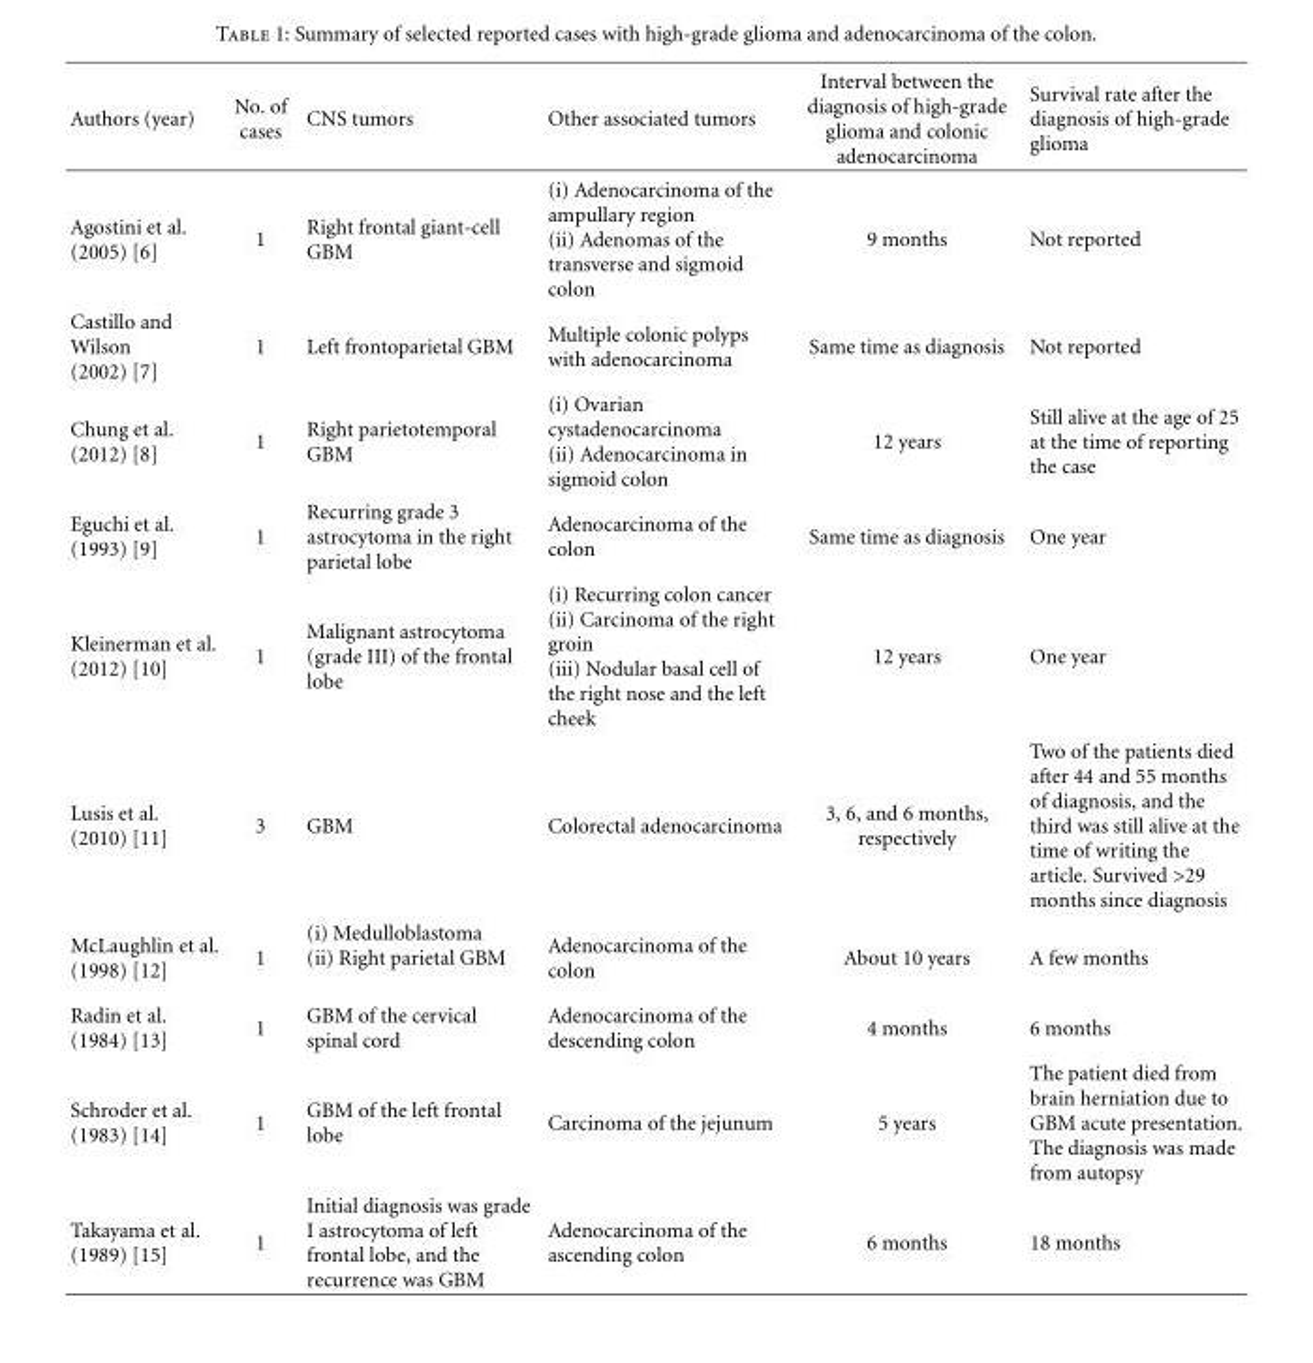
<table><thead><tr><td>Authors (year)</td><td>No. of cases</td><td>CNS tumors</td><td>Other associated tumors</td><td>Interval between the diagnosis of high-grade glioma and colonic adenocarcinoma</td><td>Survival rate after the diagnosis of high-grade glioma</td></tr></thead><tbody><tr><td>Agostini et al. (2005) [6]</td><td>1</td><td>Right frontal giant-cell GBM</td><td>(i) Adenocarcinoma of the ampullary region (ii) Adenomas of the transverse and sigmoid colon</td><td>9 months</td><td>Not reported</td></tr><tr><td>Castillo and Wilson (2002) [7]</td><td>1</td><td>Left frontoparietal GBM</td><td>Multiple colonic polyps with adenocarcinoma</td><td>Same time as diagnosis</td><td>Not reported</td></tr><tr><td>Chung et al. (2012) [8]</td><td>1</td><td>Right parietotemporal GBM</td><td>(i) Ovarian cystadenocarcinoma (ii) Adenocarcinoma in sigmoid colon</td><td>12 years</td><td>Still alive at the age of 25 at the time of reporting the case</td></tr><tr><td>Eguchi et al. (1993) [9]</td><td>1</td><td>Recurring grade 3 astrocytoma in the right parietal lobe</td><td>Adenocarcinoma of the colon</td><td>Same time as diagnosis</td><td>One year</td></tr><tr><td>Kleinerman et al. (2012) [10]</td><td>1</td><td>Malignant astrocytoma (grade III) of the frontal lobe</td><td>(i) Recurring colon cancer (ii) Carcinoma of the right groin (iii) Nodular basal cell of the right nose and the left cheek</td><td>12 years</td><td>One year</td></tr><tr><td>Lusis et al. (2010) [11]</td><td>3</td><td>GBM</td><td>Colorectal adenocarcinoma</td><td>3, 6, and 6 months, respectively</td><td>Two of the patients died after 44 and 55 months of diagnosis, and the third was still alive at the time of writing the article. Survived &gt;29 months since diagnosis</td></tr><tr><td>McLaughlin et al. (1998) [12]</td><td>1</td><td>(i) Medulloblastoma (ii) Right parietal GBM</td><td>Adenocarcinoma of the colon</td><td>About 10 years</td><td>A few months</td></tr><tr><td>Radin et al. (1984) [13]</td><td>1</td><td>GBM of the cervical spinal cord</td><td>Adenocarcinoma of the descending colon</td><td>4 months</td><td>6 months</td></tr><tr><td>Schroder et al. (1983) [14]</td><td>1</td><td>GBM of the left frontal lobe</td><td>Carcinoma of the jejunum</td><td>5 years</td><td>The patient died from brain herniation due to GBM acute presentation. The diagnosis was made from autopsy</td></tr><tr><td>Takayama et al. (1989) [15]</td><td>1</td><td>Initial diagnosis was grade I astrocytoma of left frontal lobe, and the recurrence was GBM</td><td>Adenocarcinoma of the ascending colon</td><td>6 months</td><td>18 months</td></tr></tbody></table>